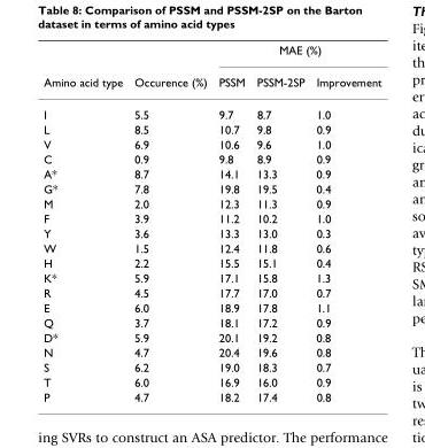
<table><thead><tr><td rowspan="2">Amino acid type</td><td rowspan="2">Occurence (%)</td><td colspan="3">MAE (%)</td></tr><tr><td>PSSM</td><td>PSSM-2SP</td><td>Improvement</td></tr></thead><tbody><tr><td>I</td><td>5.5</td><td>9.7</td><td>8.7</td><td>1.0</td></tr><tr><td>L</td><td>8.5</td><td>10.7</td><td>9.8</td><td>0.9</td></tr><tr><td>V</td><td>6.9</td><td>10.6</td><td>9.6</td><td>1.0</td></tr><tr><td>C</td><td>0.9</td><td>9.8</td><td>8.9</td><td>0.9</td></tr><tr><td>A*</td><td>8.7</td><td>14.1</td><td>13.3</td><td>0.9</td></tr><tr><td>G*</td><td>7.8</td><td>19.8</td><td>19.5</td><td>0.4</td></tr><tr><td>M</td><td>2.0</td><td>12.3</td><td>11.3</td><td>0.9</td></tr><tr><td>F</td><td>3.9</td><td>11.2</td><td>10.2</td><td>1.0</td></tr><tr><td>Y</td><td>3.6</td><td>13.3</td><td>13.0</td><td>0.3</td></tr><tr><td>W</td><td>1.5</td><td>12.4</td><td>11.8</td><td>0.6</td></tr><tr><td>H</td><td>2.2</td><td>15.5</td><td>15.1</td><td>0.4</td></tr><tr><td>K*</td><td>5.9</td><td>17.1</td><td>15.8</td><td>1.3</td></tr><tr><td>R</td><td>4.5</td><td>17.7</td><td>17.0</td><td>0.7</td></tr><tr><td>E</td><td>6.0</td><td>18.9</td><td>17.8</td><td>1.1</td></tr><tr><td>Q</td><td>3.7</td><td>18.1</td><td>17.2</td><td>0.9</td></tr><tr><td>D*</td><td>5.9</td><td>20.1</td><td>19.2</td><td>0.8</td></tr><tr><td>N</td><td>4.7</td><td>20.4</td><td>19.6</td><td>0.8</td></tr><tr><td>S</td><td>6.2</td><td>19.0</td><td>18.3</td><td>0.7</td></tr><tr><td>T</td><td>6.0</td><td>16.9</td><td>16.0</td><td>0.9</td></tr><tr><td>P</td><td>4.7</td><td>18.2</td><td>17.4</td><td>0.8</td></tr></tbody></table>